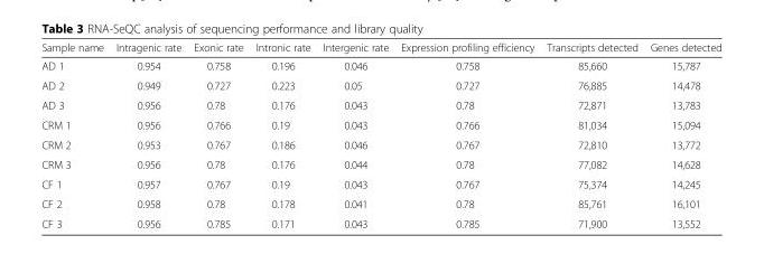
<table><thead><tr><td>Sample name</td><td>Intragenic rate</td><td>Exonic rate</td><td>Intronic rate</td><td>Intergenic rate</td><td>Expression profiling efficiency</td><td>Transcripts detected</td><td>Genes detected</td></tr></thead><tbody><tr><td>AD 1</td><td>0.954</td><td>0.758</td><td>0.196</td><td>0.046</td><td>0.758</td><td>85,660</td><td>15,787</td></tr><tr><td>AD 2</td><td>0.949</td><td>0.727</td><td>0.223</td><td>0.05</td><td>0.727</td><td>76,885</td><td>14,478</td></tr><tr><td>AD 3</td><td>0.956</td><td>0.78</td><td>0.176</td><td>0.043</td><td>0.78</td><td>72,871</td><td>13,783</td></tr><tr><td>CRM 1</td><td>0.956</td><td>0.766</td><td>0.19</td><td>0.043</td><td>0.766</td><td>81,034</td><td>15,094</td></tr><tr><td>CRM 2</td><td>0.953</td><td>0.767</td><td>0.186</td><td>0.046</td><td>0.767</td><td>72,810</td><td>13,772</td></tr><tr><td>CRM 3</td><td>0.956</td><td>0.78</td><td>0.176</td><td>0.044</td><td>0.78</td><td>77,082</td><td>14,628</td></tr><tr><td>CF 1</td><td>0.957</td><td>0.767</td><td>0.19</td><td>0.043</td><td>0.767</td><td>75,374</td><td>14,245</td></tr><tr><td>CF 2</td><td>0.958</td><td>0.78</td><td>0.178</td><td>0.041</td><td>0.78</td><td>85,761</td><td>16,101</td></tr><tr><td>CF 3</td><td>0.956</td><td>0.785</td><td>0.171</td><td>0.043</td><td>0.785</td><td>71,900</td><td>13,552</td></tr></tbody></table>